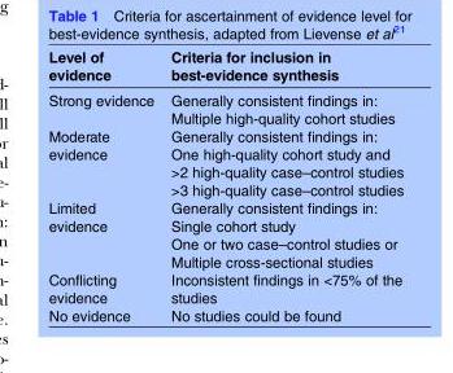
<table><thead><tr><td>Level of evidence</td><td>Criteria for inclusion in best-evidence synthesis</td></tr></thead><tbody><tr><td>Strong evidence</td><td>Generally consistent findings in: Multiple high-quality cohort studies</td></tr><tr><td>Moderate evidence</td><td>Generally consistent findings in: One high-quality cohort study and &gt;2 high-quality case–control studies &gt;3 high-quality case–control studies</td></tr><tr><td>Limited evidence</td><td>Generally consistent findings in: Single cohort study One or two case–control studies or Multiple cross-sectional studies</td></tr><tr><td>Conflicting evidence</td><td>Inconsistent findings in &lt;75% of the studies</td></tr><tr><td>No evidence</td><td>No studies could be found</td></tr></tbody></table>